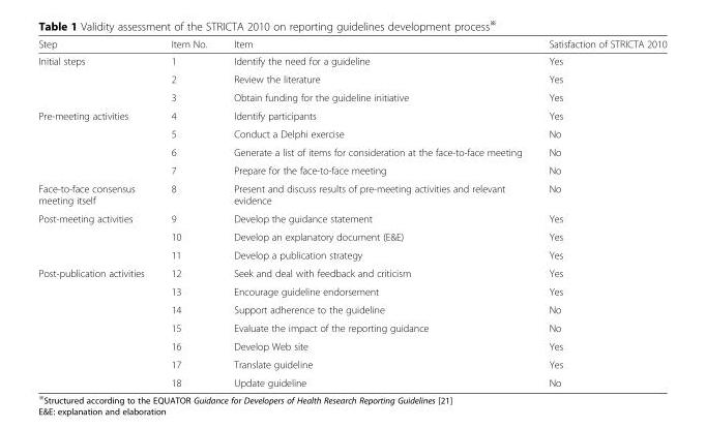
<table><thead><tr><td>Step</td><td>Item No.</td><td>Item</td><td>Satisfaction of STRICTA 2010</td></tr></thead><tbody><tr><td rowspan="3">Initial steps</td><td>1</td><td>Identify the need for a guideline</td><td>Yes</td></tr><tr><td>2</td><td>Review the literature</td><td>Yes</td></tr><tr><td>3</td><td>Obtain funding for the guideline initiative</td><td>Yes</td></tr><tr><td rowspan="4">Pre-meeting activities</td><td>4</td><td>Identify participants</td><td>Yes</td></tr><tr><td>5</td><td>Conduct a Delphi exercise</td><td>No</td></tr><tr><td>6</td><td>Generate a list of items for consideration at the face-to-face meeting</td><td>No</td></tr><tr><td>7</td><td>Prepare for the face-to-face meeting</td><td>No</td></tr><tr><td>Face-to-face consensus meeting itself</td><td>8</td><td>Present and discuss results of pre-meeting activities and relevant evidence</td><td>No</td></tr><tr><td rowspan="3">Post-meeting activities</td><td>9</td><td>Develop the guidance statement</td><td>Yes</td></tr><tr><td>10</td><td>Develop an explanatory document (E&amp;E)</td><td>Yes</td></tr><tr><td>11</td><td>Develop a publication strategy</td><td>Yes</td></tr><tr><td rowspan="7">Post-publication activities</td><td>12</td><td>Seek and deal with feedback and criticism</td><td>Yes</td></tr><tr><td>13</td><td>Encourage guideline endorsement</td><td>Yes</td></tr><tr><td>14</td><td>Support adherence to the guideline</td><td>No</td></tr><tr><td>15</td><td>Evaluate the impact of the reporting guidance</td><td>No</td></tr><tr><td>16</td><td>Develop Web site</td><td>Yes</td></tr><tr><td>17</td><td>Translate guideline</td><td>Yes</td></tr><tr><td>18</td><td>Update guideline</td><td>No</td></tr></tbody></table>